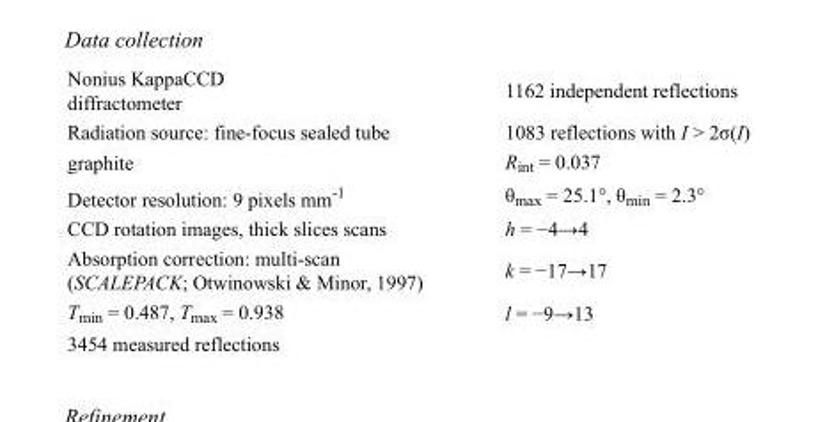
<table><tbody><tr><td>Nonius KappaCCD diffractometer</td><td>1162 independent reflections</td></tr><tr><td>Radiation source: fine-focus sealed tube</td><td>1083 reflections with I &gt; 2σ(I)</td></tr><tr><td>graphite</td><td>R<sub>int</sub> = 0.037</td></tr><tr><td>Detector resolution: 9 pixels mm<sup>-1</sup></td><td>θ<sub>max</sub> = 25.1°, θ<sub>min</sub> = 2.3°</td></tr><tr><td>CCD rotation images, thick slices scans</td><td>h = −4→4</td></tr><tr><td>Absorption correction: multi-scan (SCALEPACK; Otwinowski &amp; Minor, 1997)</td><td>k = −17→17</td></tr><tr><td>T<sub>min</sub> = 0.487, T<sub>max</sub> = 0.938</td><td>l = −9→13</td></tr><tr><td>3454 measured reflections</td><td></td></tr></tbody></table>